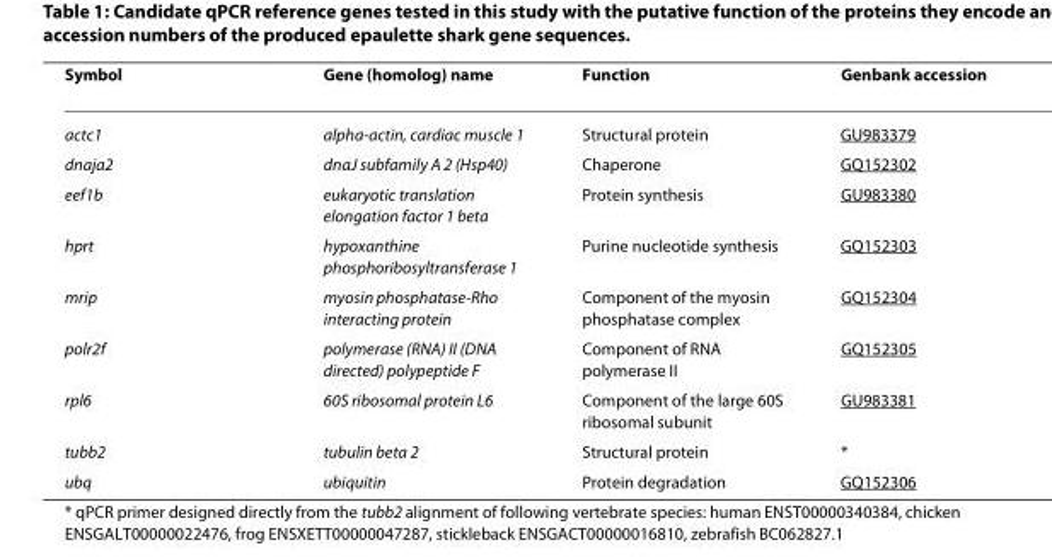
<table><thead><tr><td>Symbol</td><td>Gene (homolog) name</td><td>Function</td><td>Genbank accession</td></tr></thead><tbody><tr><td>actc1</td><td>alpha-actin, cardiac muscle 1</td><td>Structural protein</td><td>GU983379</td></tr><tr><td>dnaja2</td><td>dnaJ subfamily A 2 (Hsp40)</td><td>Chaperone</td><td>GQ152302</td></tr><tr><td>eef1b</td><td>eukaryotic translation elongation factor 1 beta</td><td>Protein synthesis</td><td>GU983380</td></tr><tr><td>hprt</td><td>hypoxanthine phosphoribosyltransferase 1</td><td>Purine nucleotide synthesis</td><td>GQ152303</td></tr><tr><td>mrip</td><td>myosin phosphatase-Rho interacting protein</td><td>Component of the myosin phosphatase complex</td><td>GQ152304</td></tr><tr><td>polr2f</td><td>polymerase (RNA) II (DNA directed) polypeptide F</td><td>Component of RNA polymerase II</td><td>GQ152305</td></tr><tr><td>rpl6</td><td>60S ribosomal protein L6</td><td>Component of the large 60S ribosomal subunit</td><td>GU983381</td></tr><tr><td>tubb2</td><td>tubulin beta 2</td><td>Structural protein</td><td>*</td></tr><tr><td>ubq</td><td>ubiquitin</td><td>Protein degradation</td><td>GQ152306</td></tr></tbody></table>